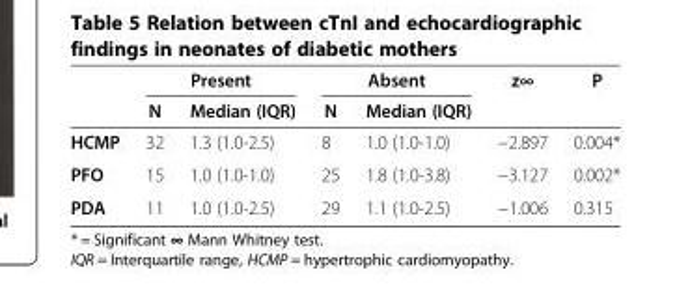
<table><thead><tr><td rowspan="2"></td><td colspan="2">Present</td><td colspan="2">Absent</td><td rowspan="2">z∞</td><td rowspan="2">P</td></tr><tr><td>N</td><td>Median (IQR)</td><td>N</td><td>Median (IQR)</td></tr></thead><tbody><tr><td>HCMP</td><td>32</td><td>1.3 (1.0-2.5)</td><td>8</td><td>1.0 (1.0-1.0)</td><td>−2.897</td><td>0.004*</td></tr><tr><td>PFO</td><td>15</td><td>1.0 (1.0-1.0)</td><td>25</td><td>1.8 (1.0-3.8)</td><td>−3.127</td><td>0.002*</td></tr><tr><td>PDA</td><td>11</td><td>1.0 (1.0-2.5)</td><td>29</td><td>1.1 (1.0-2.5)</td><td>−1.006</td><td>0.315</td></tr></tbody></table>